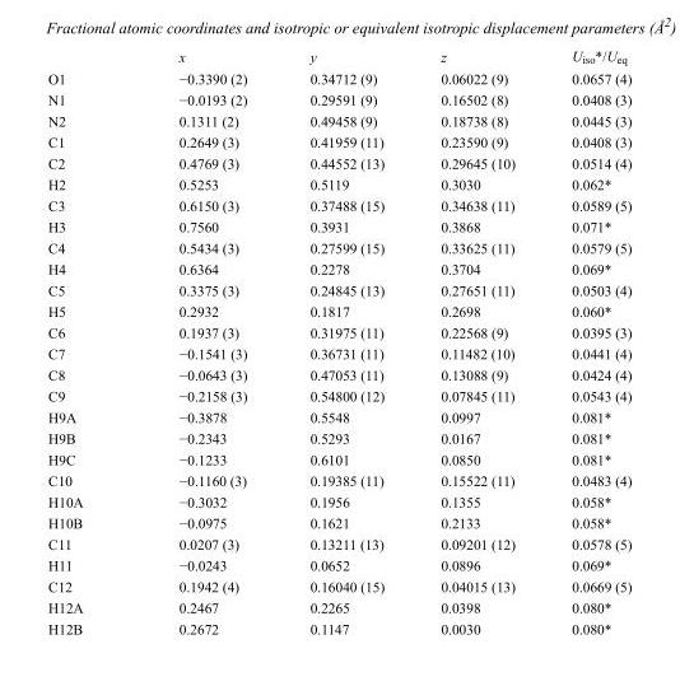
<table><thead><tr><td></td><td>x</td><td>y</td><td>z</td><td>U<sub>iso</sub>*/U<sub>eq</sub></td></tr></thead><tbody><tr><td>O1</td><td>−0.3390 (2)</td><td>0.34712 (9)</td><td>0.06022 (9)</td><td>0.0657 (4)</td></tr><tr><td>N1</td><td>−0.0193 (2)</td><td>0.29591 (9)</td><td>0.16502 (8)</td><td>0.0408 (3)</td></tr><tr><td>N2</td><td>0.1311 (2)</td><td>0.49458 (9)</td><td>0.18738 (8)</td><td>0.0445 (3)</td></tr><tr><td>C1</td><td>0.2649 (3)</td><td>0.41959 (11)</td><td>0.23590 (9)</td><td>0.0408 (3)</td></tr><tr><td>C2</td><td>0.4769 (3)</td><td>0.44552 (13)</td><td>0.29645 (10)</td><td>0.0514 (4)</td></tr><tr><td>H2</td><td>0.5253</td><td>0.5119</td><td>0.3030</td><td>0.062*</td></tr><tr><td>C3</td><td>0.6150 (3)</td><td>0.37488 (15)</td><td>0.34638 (11)</td><td>0.0589 (5)</td></tr><tr><td>H3</td><td>0.7560</td><td>0.3931</td><td>0.3868</td><td>0.071*</td></tr><tr><td>C4</td><td>0.5434 (3)</td><td>0.27599 (15)</td><td>0.33625 (11)</td><td>0.0579 (5)</td></tr><tr><td>H4</td><td>0.6364</td><td>0.2278</td><td>0.3704</td><td>0.069*</td></tr><tr><td>C5</td><td>0.3375 (3)</td><td>0.24845 (13)</td><td>0.27651 (11)</td><td>0.0503 (4)</td></tr><tr><td>H5</td><td>0.2932</td><td>0.1817</td><td>0.2698</td><td>0.060*</td></tr><tr><td>C6</td><td>0.1937 (3)</td><td>0.31975 (11)</td><td>0.22568 (9)</td><td>0.0395 (3)</td></tr><tr><td>C7</td><td>−0.1541 (3)</td><td>0.36731 (11)</td><td>0.11482 (10)</td><td>0.0441 (4)</td></tr><tr><td>C8</td><td>−0.0643 (3)</td><td>0.47053 (11)</td><td>0.13088 (9)</td><td>0.0424 (4)</td></tr><tr><td>C9</td><td>−0.2158 (3)</td><td>0.54800 (12)</td><td>0.07845 (11)</td><td>0.0543 (4)</td></tr><tr><td>H9A</td><td>−0.3878</td><td>0.5548</td><td>0.0997</td><td>0.081*</td></tr><tr><td>H9B</td><td>−0.2343</td><td>0.5293</td><td>0.0167</td><td>0.081*</td></tr><tr><td>H9C</td><td>−0.1233</td><td>0.6101</td><td>0.0850</td><td>0.081*</td></tr><tr><td>C10</td><td>−0.1160 (3)</td><td>0.19385 (11)</td><td>0.15522 (11)</td><td>0.0483 (4)</td></tr><tr><td>H10A</td><td>−0.3032</td><td>0.1956</td><td>0.1355</td><td>0.058*</td></tr><tr><td>H10B</td><td>−0.0975</td><td>0.1621</td><td>0.2133</td><td>0.058*</td></tr><tr><td>C11</td><td>0.0207 (3)</td><td>0.13211 (13)</td><td>0.09201 (12)</td><td>0.0578 (5)</td></tr><tr><td>H11</td><td>−0.0243</td><td>0.0652</td><td>0.0896</td><td>0.069*</td></tr><tr><td>C12</td><td>0.1942 (4)</td><td>0.16040 (15)</td><td>0.04015 (13)</td><td>0.0669 (5)</td></tr><tr><td>H12A</td><td>0.2467</td><td>0.2265</td><td>0.0398</td><td>0.080*</td></tr><tr><td>H12B</td><td>0.2672</td><td>0.1147</td><td>0.0030</td><td>0.080*</td></tr></tbody></table>